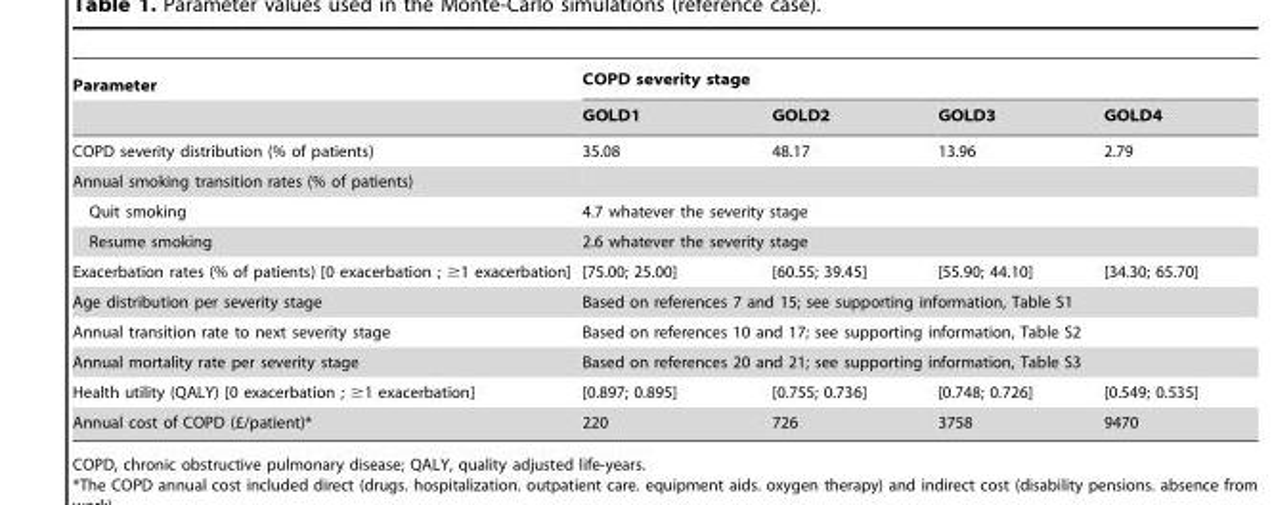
<table><thead><tr><td rowspan="2">Parameter</td><td colspan="4">COPD severity stage</td></tr><tr><td>GOLD1</td><td>GOLD2</td><td>GOLD3</td><td>GOLD4</td></tr></thead><tbody><tr><td>COPD severity distribution (% of patients)</td><td>35.08</td><td>48.17</td><td>13.96</td><td>2.79</td></tr><tr><td colspan="5">Annual smoking transition rates (% of patients)</td></tr><tr><td>Quit smoking</td><td colspan="4">4.7 whatever the severity stage</td></tr><tr><td>Resume smoking</td><td colspan="4">2.6 whatever the severity stage</td></tr><tr><td>Exacerbation rates (% of patients) [0 exacerbation ; ≥1 exacerbation]</td><td>[75.00; 25.00]</td><td>[60.55; 39.45]</td><td>[55.90; 44.10]</td><td>[34.30; 65.70]</td></tr><tr><td>Age distribution per severity stage</td><td colspan="4">Based on references 7 and 15; see supporting information, Table S1</td></tr><tr><td>Annual transition rate to next severity stage</td><td colspan="4">Based on references 10 and 17; see supporting information, Table S2</td></tr><tr><td>Annual mortality rate per severity stage</td><td colspan="4">Based on references 20 and 21; see supporting information, Table S3</td></tr><tr><td>Health utility (QALY) [0 exacerbation ; ≥1 exacerbation]</td><td>[0.897; 0.895]</td><td>[0.755; 0.736]</td><td>[0.748; 0.726]</td><td>[0.549; 0.535]</td></tr><tr><td>Annual cost of COPD (£/patient)*</td><td>220</td><td>726</td><td>3758</td><td>9470</td></tr></tbody></table>